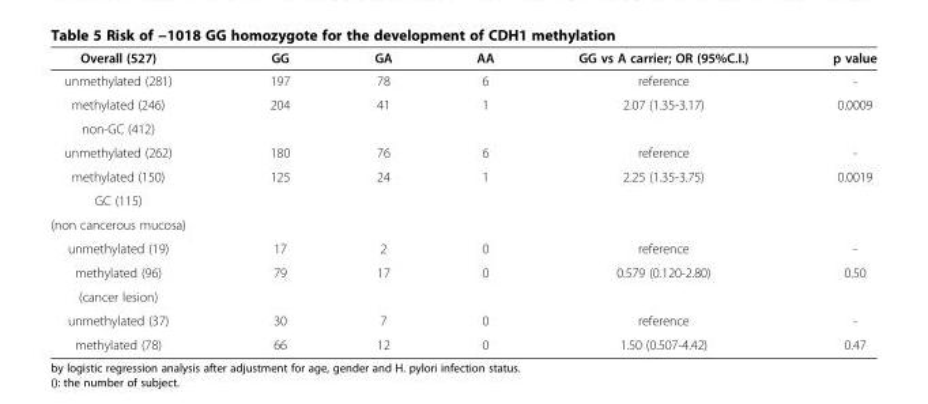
<table><thead><tr><td>Overall (527)</td><td>GG</td><td>GA</td><td>AA</td><td>GG vs A carrier; OR (95%C.I.)</td><td>p value</td></tr></thead><tbody><tr><td>unmethylated (281)</td><td>197</td><td>78</td><td>6</td><td>reference</td><td>-</td></tr><tr><td>methylated (246)</td><td>204</td><td>41</td><td>1</td><td>2.07 (1.35-3.17)</td><td>0.0009</td></tr><tr><td colspan="6">non-GC (412)</td></tr><tr><td>unmethylated (262)</td><td>180</td><td>76</td><td>6</td><td>reference</td><td>-</td></tr><tr><td>methylated (150)</td><td>125</td><td>24</td><td>1</td><td>2.25 (1.35-3.75)</td><td>0.0019</td></tr><tr><td colspan="6">GC (115)</td></tr><tr><td colspan="6">(non cancerous mucosa)</td></tr><tr><td>unmethylated (19)</td><td>17</td><td>2</td><td>0</td><td>reference</td><td>-</td></tr><tr><td>methylated (96)</td><td>79</td><td>17</td><td>0</td><td>0.579 (0.120-2.80)</td><td>0.50</td></tr><tr><td colspan="6">(cancer lesion)</td></tr><tr><td>unmethylated (37)</td><td>30</td><td>7</td><td>0</td><td>reference</td><td>-</td></tr><tr><td>methylated (78)</td><td>66</td><td>12</td><td>0</td><td>1.50 (0.507-4.42)</td><td>0.47</td></tr></tbody></table>